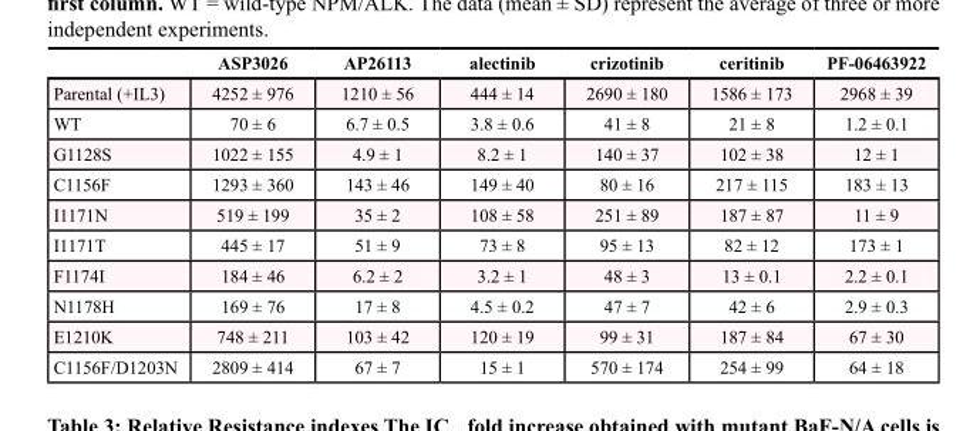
<table><thead><tr><td></td><td>ASP3026</td><td>AP26113</td><td>alectinib</td><td>crizotinib</td><td>ceritinib</td><td>PF-06463922</td></tr></thead><tbody><tr><td>Parental (+IL3)</td><td>4252 ± 976</td><td>1210 ± 56</td><td>444 ± 14</td><td>2690 ± 180</td><td>1586 ± 173</td><td>2968 ± 39</td></tr><tr><td>WT</td><td>70 ± 6</td><td>6.7 ± 0.5</td><td>3.8 ± 0.6</td><td>41 ± 8</td><td>21 ± 8</td><td>1.2 ± 0.1</td></tr><tr><td>G1128S</td><td>1022 ± 155</td><td>4.9 ± 1</td><td>8.2 ± 1</td><td>140 ± 37</td><td>102 ± 38</td><td>12 ± 1</td></tr><tr><td>C1156F</td><td>1293 ± 360</td><td>143 ± 46</td><td>149 ± 40</td><td>80 ± 16</td><td>217 ± 115</td><td>183 ± 13</td></tr><tr><td>I1171N</td><td>519 ± 199</td><td>35 ± 2</td><td>108 ± 58</td><td>251 ± 89</td><td>187 ± 87</td><td>11 ± 9</td></tr><tr><td>I1171T</td><td>445 ± 17</td><td>51 ± 9</td><td>73 ± 8</td><td>95 ± 13</td><td>82 ± 12</td><td>173 ± 1</td></tr><tr><td>F1174I</td><td>184 ± 46</td><td>6.2 ± 2</td><td>3.2 ± 1</td><td>48 ± 3</td><td>13 ± 0.1</td><td>2.2 ± 0.1</td></tr><tr><td>N1178H</td><td>169 ± 76</td><td>17 ± 8</td><td>4.5 ± 0.2</td><td>47 ± 7</td><td>42 ± 6</td><td>2.9 ± 0.3</td></tr><tr><td>E1210K</td><td>748 ± 211</td><td>103 ± 42</td><td>120 ± 19</td><td>99 ± 31</td><td>187 ± 84</td><td>67 ± 30</td></tr><tr><td>C1156F/D1203N</td><td>2809 ± 414</td><td>67 ± 7</td><td>15 ± 1</td><td>570 ± 174</td><td>254 ± 99</td><td>64 ± 18</td></tr></tbody></table>